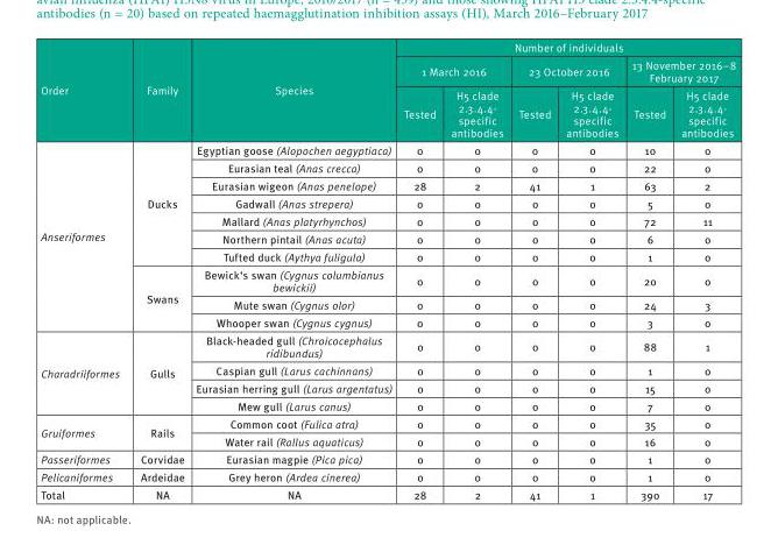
<table><thead><tr><td rowspan="3">Order</td><td rowspan="3">Family</td><td rowspan="3">Species</td><td colspan="6">Number of individuals</td></tr><tr><td colspan="2">1 March 2016</td><td colspan="2">23 October 2016</td><td colspan="2">13 November 2016–8 February 2017</td></tr><tr><td>Tested</td><td>H5 clade 2.3.4.4- specific antibodies</td><td>Tested</td><td>H5 clade 2.3.4.4- specific antibodies</td><td>Tested</td><td>H5 clade 2.3.4.4- specific antibodies</td></tr></thead><tbody><tr><td rowspan="10">Anseriformes</td><td rowspan="7">Ducks</td><td>Egyptian goose (Alopochen aegyptiaca)</td><td>0</td><td>0</td><td>0</td><td>0</td><td>10</td><td>0</td></tr><tr><td>Eurasian teal (Anas crecca)</td><td>0</td><td>0</td><td>0</td><td>0</td><td>22</td><td>0</td></tr><tr><td>Eurasian wigeon (Anas penelope)</td><td>28</td><td>2</td><td>41</td><td>1</td><td>63</td><td>2</td></tr><tr><td>Gadwall (Anas strepera)</td><td>0</td><td>0</td><td>0</td><td>0</td><td>5</td><td>0</td></tr><tr><td>Mallard (Anas platyrhynchos)</td><td>0</td><td>0</td><td>0</td><td>0</td><td>72</td><td>11</td></tr><tr><td>Northern pintail (Anas acuta)</td><td>0</td><td>0</td><td>0</td><td>0</td><td>6</td><td>0</td></tr><tr><td>Tufted duck (Aythya fuligula)</td><td>0</td><td>0</td><td>0</td><td>0</td><td>1</td><td>0</td></tr><tr><td rowspan="3">Swans</td><td>Bewick‘s swan (Cygnus columbianus bewickii)</td><td>0</td><td>0</td><td>0</td><td>0</td><td>20</td><td>0</td></tr><tr><td>Mute swan (Cygnus olor)</td><td>0</td><td>0</td><td>0</td><td>0</td><td>24</td><td>3</td></tr><tr><td>Whooper swan (Cygnus cygnus)</td><td>0</td><td>0</td><td>0</td><td>0</td><td>3</td><td>0</td></tr><tr><td rowspan="4">Charadriiformes</td><td rowspan="4">Gulls</td><td>Black-headed gull (Chroicocephalus ridibundus)</td><td>0</td><td>0</td><td>0</td><td>0</td><td>88</td><td>1</td></tr><tr><td>Caspian gull (Larus cachinnans)</td><td>0</td><td>0</td><td>0</td><td>0</td><td>1</td><td>0</td></tr><tr><td>Eurasian herring gull (Larus argentatus)</td><td>0</td><td>0</td><td>0</td><td>0</td><td>15</td><td>0</td></tr><tr><td>Mew gull (Larus canus)</td><td>0</td><td>0</td><td>0</td><td>0</td><td>7</td><td>0</td></tr><tr><td rowspan="2">Gruiformes</td><td rowspan="2">Rails</td><td>Common coot (Fulica atra)</td><td>0</td><td>0</td><td>0</td><td>0</td><td>35</td><td>0</td></tr><tr><td>Water rail (Rallus aquaticus)</td><td>0</td><td>0</td><td>0</td><td>0</td><td>16</td><td>0</td></tr><tr><td>Passeriformes</td><td>Corvidae</td><td>Eurasian magpie (Pica pica)</td><td>0</td><td>0</td><td>0</td><td>0</td><td>1</td><td>0</td></tr><tr><td>Pelicaniformes</td><td>Ardeidae</td><td>Grey heron (Ardea cinerea)</td><td>0</td><td>0</td><td>0</td><td>0</td><td>1</td><td>0</td></tr><tr><td>Total</td><td>NA</td><td>NA</td><td>28</td><td>2</td><td>41</td><td>1</td><td>390</td><td>17</td></tr></tbody></table>